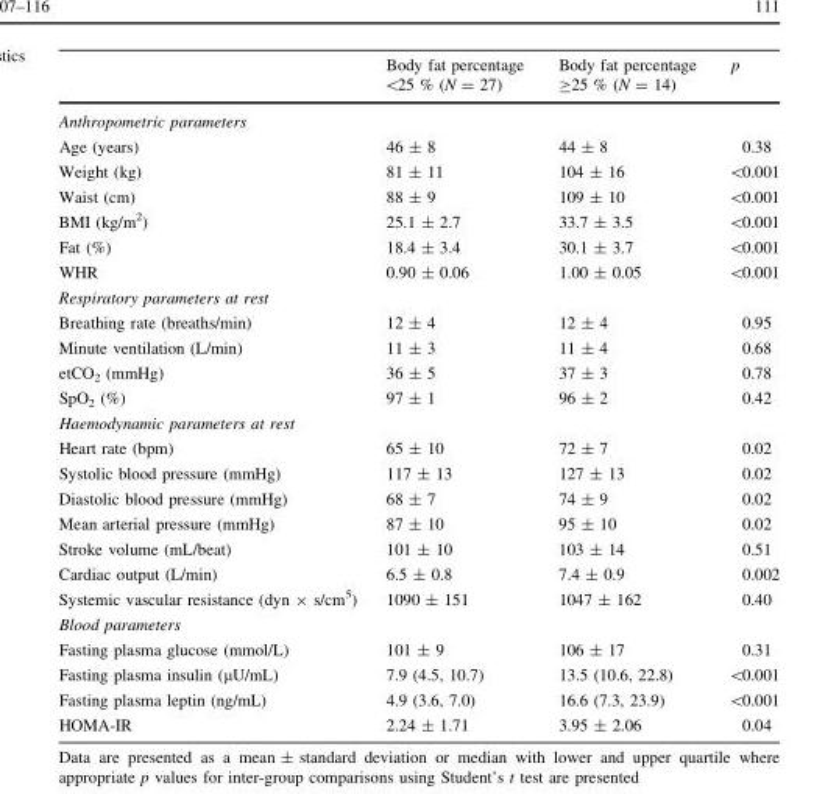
<table><thead><tr><td></td><td>Body fat percentage &lt;25 % (N = 27)</td><td>Body fat percentage ≥25 % (N = 14)</td><td>p</td></tr></thead><tbody><tr><td colspan="4">Anthropometric parameters</td></tr><tr><td>Age (years)</td><td>46 ± 8</td><td>44 ± 8</td><td>0.38</td></tr><tr><td>Weight (kg)</td><td>81 ± 11</td><td>104 ± 16</td><td>&lt;0.001</td></tr><tr><td>Waist (cm)</td><td>88 ± 9</td><td>109 ± 10</td><td>&lt;0.001</td></tr><tr><td>BMI (kg/m<sup>2</sup>)</td><td>25.1 ± 2.7</td><td>33.7 ± 3.5</td><td>&lt;0.001</td></tr><tr><td>Fat (%)</td><td>18.4 ± 3.4</td><td>30.1 ± 3.7</td><td>&lt;0.001</td></tr><tr><td>WHR</td><td>0.90 ± 0.06</td><td>1.00 ± 0.05</td><td>&lt;0.001</td></tr><tr><td colspan="4">Respiratory parameters at rest</td></tr><tr><td>Breathing rate (breaths/min)</td><td>12 ± 4</td><td>12 ± 4</td><td>0.95</td></tr><tr><td>Minute ventilation (L/min)</td><td>11 ± 3</td><td>11 ± 4</td><td>0.68</td></tr><tr><td>etCO<sub>2</sub> (mmHg)</td><td>36 ± 5</td><td>37 ± 3</td><td>0.78</td></tr><tr><td>SpO<sub>2</sub> (%)</td><td>97 ± 1</td><td>96 ± 2</td><td>0.42</td></tr><tr><td colspan="4">Haemodynamic parameters at rest</td></tr><tr><td>Heart rate (bpm)</td><td>65 ± 10</td><td>72 ± 7</td><td>0.02</td></tr><tr><td>Systolic blood pressure (mmHg)</td><td>117 ± 13</td><td>127 ± 13</td><td>0.02</td></tr><tr><td>Diastolic blood pressure (mmHg)</td><td>68 ± 7</td><td>74 ± 9</td><td>0.02</td></tr><tr><td>Mean arterial pressure (mmHg)</td><td>87 ± 10</td><td>95 ± 10</td><td>0.02</td></tr><tr><td>Stroke volume (mL/beat)</td><td>101 ± 10</td><td>103 ± 14</td><td>0.51</td></tr><tr><td>Cardiac output (L/min)</td><td>6.5 ± 0.8</td><td>7.4 ± 0.9</td><td>0.002</td></tr><tr><td>Systemic vascular resistance (dyn × s/cm<sup>5</sup>)</td><td>1090 ± 151</td><td>1047 ± 162</td><td>0.40</td></tr><tr><td colspan="4">Blood parameters</td></tr><tr><td>Fasting plasma glucose (mmol/L)</td><td>101 ± 9</td><td>106 ± 17</td><td>0.31</td></tr><tr><td>Fasting plasma insulin (μU/mL)</td><td>7.9 (4.5, 10.7)</td><td>13.5 (10.6, 22.8)</td><td>&lt;0.001</td></tr><tr><td>Fasting plasma leptin (ng/mL)</td><td>4.9 (3.6, 7.0)</td><td>16.6 (7.3, 23.9)</td><td>&lt;0.001</td></tr><tr><td>HOMA-IR</td><td>2.24 ± 1.71</td><td>3.95 ± 2.06</td><td>0.04</td></tr></tbody></table>